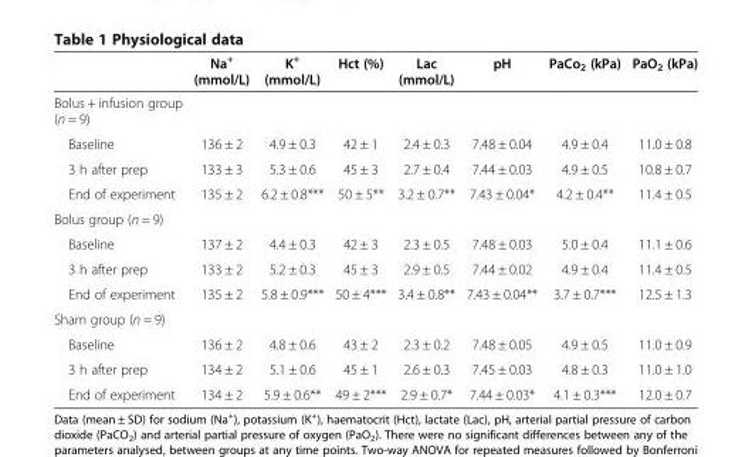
<table><thead><tr><td></td><td>Na<sup>+</sup> (mmol/L)</td><td>K<sup>+</sup> (mmol/L)</td><td>Hct (%)</td><td>Lac (mmol/L)</td><td>pH</td><td>PaCo<sub>2</sub> (kPa)</td><td>PaO<sub>2</sub> (kPa)</td></tr></thead><tbody><tr><td colspan="8">Bolus + infusion group (n = 9)</td></tr><tr><td>Baseline</td><td>136 ± 2</td><td>4.9 ± 0.3</td><td>42 ± 1</td><td>2.4 ± 0.3</td><td>7.48 ± 0.04</td><td>4.9 ± 0.4</td><td>11.0 ± 0.8</td></tr><tr><td>3 h after prep</td><td>133 ± 3</td><td>5.3 ± 0.6</td><td>45 ± 3</td><td>2.7 ± 0.4</td><td>7.44 ± 0.03</td><td>4.9 ± 0.5</td><td>10.8 ± 0.7</td></tr><tr><td>End of experiment</td><td>135 ± 2</td><td>6.2 ± 0.8***</td><td>50 ± 5**</td><td>3.2 ± 0.7**</td><td>7.43 ± 0.04*</td><td>4.2 ± 0.4**</td><td>11.4 ± 0.5</td></tr><tr><td colspan="8">Bolus group (n = 9)</td></tr><tr><td>Baseline</td><td>137 ± 2</td><td>4.4 ± 0.3</td><td>42 ± 3</td><td>2.3 ± 0.5</td><td>7.48 ± 0.03</td><td>5.0 ± 0.4</td><td>11.1 ± 0.6</td></tr><tr><td>3 h after prep</td><td>133 ± 2</td><td>5.2 ± 0.3</td><td>45 ± 3</td><td>2.9 ± 0.5</td><td>7.44 ± 0.02</td><td>4.9 ± 0.4</td><td>11.4 ± 0.5</td></tr><tr><td>End of experiment</td><td>135 ± 2</td><td>5.8 ± 0.9***</td><td>50 ± 4***</td><td>3.4 ± 0.8**</td><td>7.43 ± 0.04**</td><td>3.7 ± 0.7***</td><td>12.5 ± 1.3</td></tr><tr><td colspan="8">Sham group (n = 9)</td></tr><tr><td>Baseline</td><td>136 ± 2</td><td>4.8 ± 0.6</td><td>43 ± 2</td><td>2.3 ± 0.2</td><td>7.48 ± 0.05</td><td>4.9 ± 0.5</td><td>11.0 ± 0.9</td></tr><tr><td>3 h after prep</td><td>134 ± 2</td><td>5.1 ± 0.6</td><td>45 ± 1</td><td>2.6 ± 0.3</td><td>7.45 ± 0.03</td><td>4.8 ± 0.3</td><td>11.0 ± 1.0</td></tr><tr><td>End of experiment</td><td>134 ± 2</td><td>5.9 ± 0.6**</td><td>49 ± 2***</td><td>2.9 ± 0.7*</td><td>7.44 ± 0.03*</td><td>4.1 ± 0.3***</td><td>12.0 ± 0.7</td></tr></tbody></table>